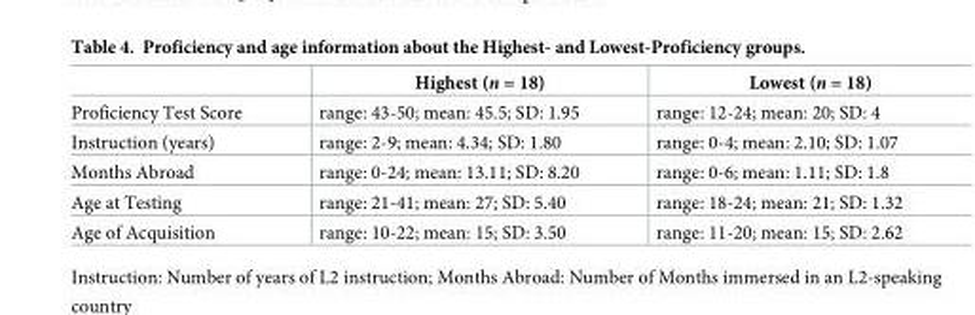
<table><thead><tr><td></td><td>Highest (n = 18)</td><td>Lowest (n = 18)</td></tr></thead><tbody><tr><td>Proficiency Test Score</td><td>range: 43-50; mean: 45.5; SD: 1.95</td><td>range: 12-24; mean: 20; SD: 4</td></tr><tr><td>Instruction (years)</td><td>range: 2-9; mean: 4.34; SD: 1.80</td><td>range: 0-4; mean: 2.10; SD: 1.07</td></tr><tr><td>Months Abroad</td><td>range: 0-24; mean: 13.11; SD: 8.20</td><td>range: 0-6; mean: 1.11; SD: 1.8</td></tr><tr><td>Age at Testing</td><td>range: 21-41; mean: 27; SD: 5.40</td><td>range: 18-24; mean: 21; SD: 1.32</td></tr><tr><td>Age of Acquisition</td><td>range: 10-22; mean: 15; SD: 3.50</td><td>range: 11-20; mean: 15; SD: 2.62</td></tr></tbody></table>